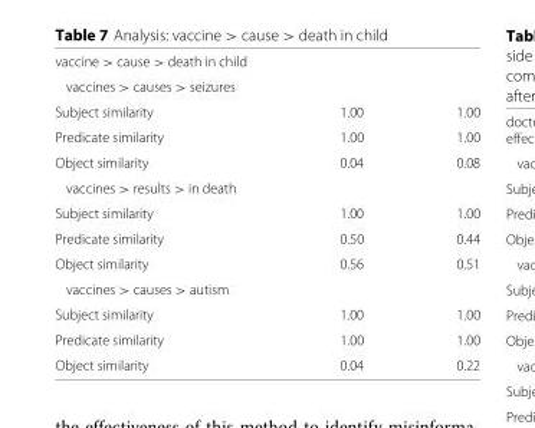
<table><tbody><tr><td colspan="3">vaccine &gt; cause &gt; death in child</td></tr><tr><td colspan="3">vaccines &gt; causes &gt; seizures</td></tr><tr><td>Subject similarity</td><td>1.00</td><td>1.00</td></tr><tr><td>Predicate similarity</td><td>1.00</td><td>1.00</td></tr><tr><td>Object similarity</td><td>0.04</td><td>0.08</td></tr><tr><td colspan="3">vaccines &gt; results &gt; in death</td></tr><tr><td>Subject similarity</td><td>1.00</td><td>1.00</td></tr><tr><td>Predicate similarity</td><td>0.50</td><td>0.44</td></tr><tr><td>Object similarity</td><td>0.56</td><td>0.51</td></tr><tr><td colspan="3">vaccines &gt; causes &gt; autism</td></tr><tr><td>Subject similarity</td><td>1.00</td><td>1.00</td></tr><tr><td>Predicate similarity</td><td>1.00</td><td>1.00</td></tr><tr><td>Object similarity</td><td>0.04</td><td>0.22</td></tr></tbody></table>